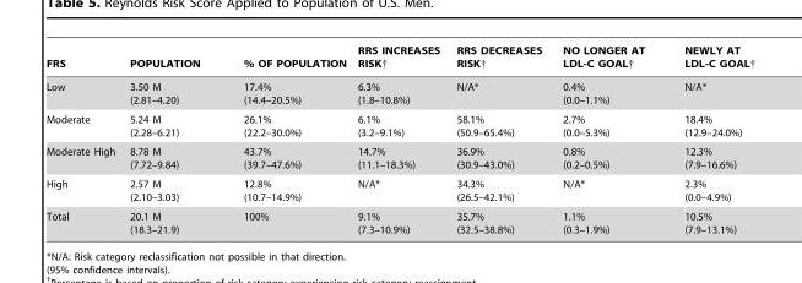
<table><thead><tr><td>FRS</td><td>POPULATION</td><td>% OF POPULATION</td><td>RRS INCREASES RISK†</td><td>RRS DECREASES RISK†</td><td>NO LONGER AT LDL-C GOAL†</td><td>NEWLY AT LDL-C GOAL†</td></tr></thead><tbody><tr><td>Low</td><td>3.50 M (2.81–4.20)</td><td>17.4% (14.4–20.5%)</td><td>6.3% (1.8–10.8%)</td><td>N/A*</td><td>0.4% (0.0–1.1%)</td><td>N/A*</td></tr><tr><td>Moderate</td><td>5.24 M (2.28–6.21)</td><td>26.1% (22.2–30.0%)</td><td>6.1% (3.2–9.1%)</td><td>58.1% (50.9–65.4%)</td><td>2.7% (0.0–5.3%)</td><td>18.4% (12.9–24.0%)</td></tr><tr><td>Moderate High</td><td>8.78 M (7.72–9.84)</td><td>43.7% (39.7–47.6%)</td><td>14.7% (11.1–18.3%)</td><td>36.9% (30.9–43.0%)</td><td>0.8% (0.2–0.5%)</td><td>12.3% (7.9–16.6%)</td></tr><tr><td>High</td><td>2.57 M (2.10–3.03)</td><td>12.8% (10.7–14.9%)</td><td>N/A*</td><td>34.3% (26.5–42.1%)</td><td>N/A*</td><td>2.3% (0.0–4.9%)</td></tr><tr><td>Total</td><td>20.1 M (18.3–21.9)</td><td>100%</td><td>9.1% (7.3–10.9%)</td><td>35.7% (32.5–38.8%)</td><td>1.1% (0.3–1.9%)</td><td>10.5% (7.9–13.1%)</td></tr></tbody></table>